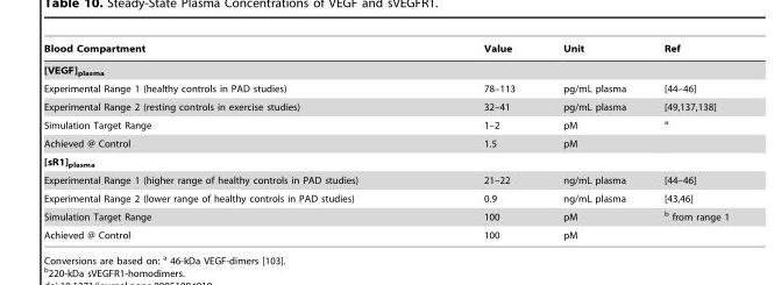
<table><thead><tr><td>Blood Compartment</td><td>Value</td><td>Unit</td><td>Ref</td></tr></thead><tbody><tr><td colspan="4">[VEGF]<sub>plasma</sub></td></tr><tr><td>Experimental Range 1 (healthy controls in PAD studies)</td><td>78–113</td><td>pg/mL plasma</td><td>[44–46]</td></tr><tr><td>Experimental Range 2 (resting controls in exercise studies)</td><td>32–41</td><td>pg/mL plasma</td><td>[49,137,138]</td></tr><tr><td>Simulation Target Range</td><td>1–2</td><td>pM</td><td>a</td></tr><tr><td>Achieved @ Control</td><td>1.5</td><td>pM</td><td></td></tr><tr><td colspan="4">[sR1]<sub>plasma</sub></td></tr><tr><td>Experimental Range 1 (higher range of healthy controls in PAD studies)</td><td>21–22</td><td>ng/mL plasma</td><td>[44–46]</td></tr><tr><td>Experimental Range 2 (lower range of healthy controls in PAD studies)</td><td>0.9</td><td>ng/mL plasma</td><td>[43,46]</td></tr><tr><td>Simulation Target Range</td><td>100</td><td>pM</td><td>b from range 1</td></tr><tr><td>Achieved @ Control</td><td>100</td><td>pM</td><td></td></tr></tbody></table>